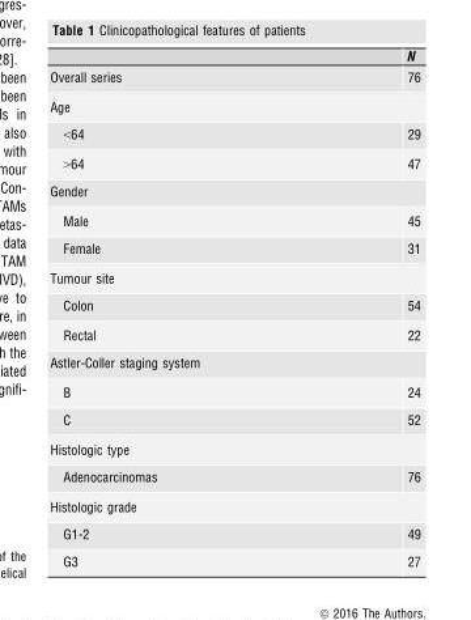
<table><thead><tr><td></td><td>N</td></tr></thead><tbody><tr><td>Overall series</td><td>76</td></tr><tr><td colspan="2">Age</td></tr><tr><td>&lt;64</td><td>29</td></tr><tr><td>&gt;64</td><td>47</td></tr><tr><td colspan="2">Gender</td></tr><tr><td>Male</td><td>45</td></tr><tr><td>Female</td><td>31</td></tr><tr><td colspan="2">Tumour site</td></tr><tr><td>Colon</td><td>54</td></tr><tr><td>Rectal</td><td>22</td></tr><tr><td colspan="2">Astler-Coller staging system</td></tr><tr><td>B</td><td>24</td></tr><tr><td>C</td><td>52</td></tr><tr><td colspan="2">Histologic type</td></tr><tr><td>Adenocarcinomas</td><td>76</td></tr><tr><td colspan="2">Histologic grade</td></tr><tr><td>G1-2</td><td>49</td></tr><tr><td>G3</td><td>27</td></tr></tbody></table>